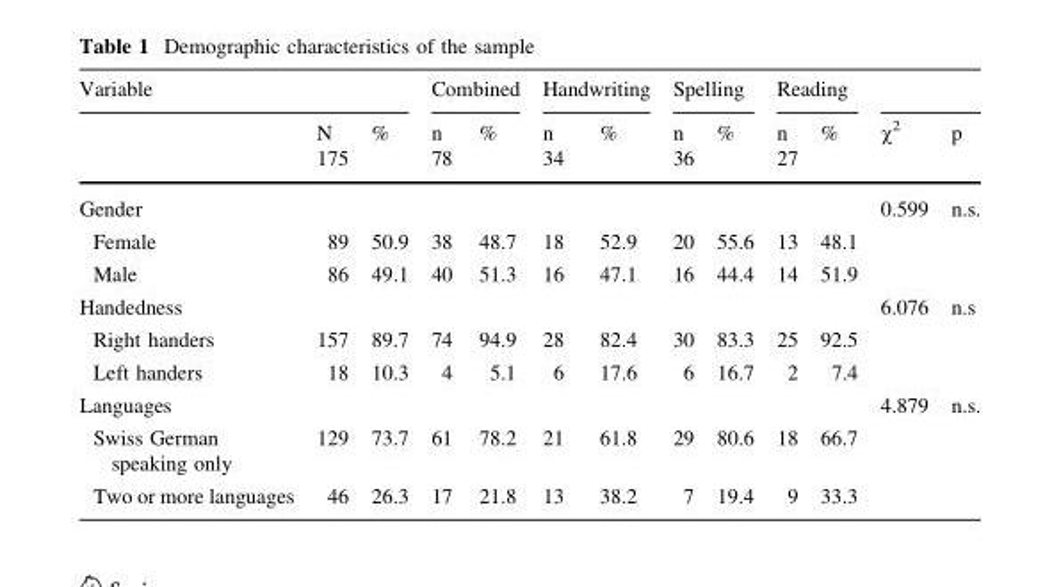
<table><thead><tr><td colspan="3">Variable</td><td colspan="2">Combined</td><td colspan="2">Handwriting</td><td colspan="2">Spelling</td><td colspan="2">Reading</td><td rowspan="3">χ<sup>2</sup></td><td rowspan="3">p</td></tr><tr><td rowspan="2"></td><td rowspan="2">N 175</td><td rowspan="2">%</td><td rowspan="2">n 78</td><td rowspan="2">%</td><td rowspan="2">n 34</td><td rowspan="2">%</td><td rowspan="2">n 36</td><td rowspan="2">%</td><td rowspan="2">n 27</td><td rowspan="2">%</td></tr><tr></tr></thead><tbody><tr><td>Gender</td><td></td><td></td><td></td><td></td><td></td><td></td><td></td><td></td><td></td><td></td><td>0.599</td><td>n.s.</td></tr><tr><td>Female</td><td>89</td><td>50.9</td><td>38</td><td>48.7</td><td>18</td><td>52.9</td><td>20</td><td>55.6</td><td>13</td><td>48.1</td><td></td><td></td></tr><tr><td>Male</td><td>86</td><td>49.1</td><td>40</td><td>51.3</td><td>16</td><td>47.1</td><td>16</td><td>44.4</td><td>14</td><td>51.9</td><td></td><td></td></tr><tr><td>Handedness</td><td></td><td></td><td></td><td></td><td></td><td></td><td></td><td></td><td></td><td></td><td>6.076</td><td>n.s</td></tr><tr><td>Right handers</td><td>157</td><td>89.7</td><td>74</td><td>94.9</td><td>28</td><td>82.4</td><td>30</td><td>83.3</td><td>25</td><td>92.5</td><td></td><td></td></tr><tr><td>Left handers</td><td>18</td><td>10.3</td><td>4</td><td>5.1</td><td>6</td><td>17.6</td><td>6</td><td>16.7</td><td>2</td><td>7.4</td><td></td><td></td></tr><tr><td>Languages</td><td></td><td></td><td></td><td></td><td></td><td></td><td></td><td></td><td></td><td></td><td>4.879</td><td>n.s.</td></tr><tr><td>Swiss German speaking only</td><td>129</td><td>73.7</td><td>61</td><td>78.2</td><td>21</td><td>61.8</td><td>29</td><td>80.6</td><td>18</td><td>66.7</td><td></td><td></td></tr><tr><td>Two or more languages</td><td>46</td><td>26.3</td><td>17</td><td>21.8</td><td>13</td><td>38.2</td><td>7</td><td>19.4</td><td>9</td><td>33.3</td><td></td><td></td></tr></tbody></table>